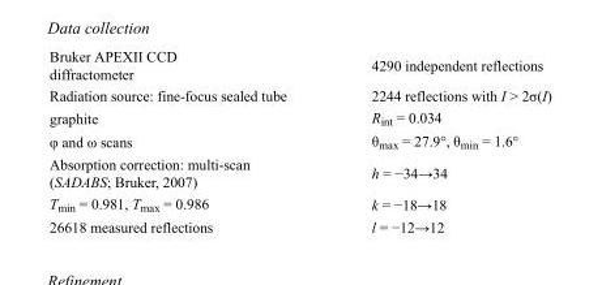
<table><tbody><tr><td>Bruker APEXII CCD diffractometer</td><td>4290 independent reflections</td></tr><tr><td>Radiation source: fine-focus sealed tube</td><td>2244 reflections with I &gt; 2σ(I)</td></tr><tr><td>graphite</td><td>R<sub>int</sub> = 0.034</td></tr><tr><td>φ and ω scans</td><td>θ<sub>max</sub> = 27.9°, θ<sub>min</sub> = 1.6°</td></tr><tr><td>Absorption correction: multi-scan (SADABS; Bruker, 2007)</td><td>h = −34→34</td></tr><tr><td>T<sub>min</sub> = 0.981, T<sub>max</sub> = 0.986</td><td>k = −18→18</td></tr><tr><td>26618 measured reflections</td><td>l = −12→12</td></tr></tbody></table>